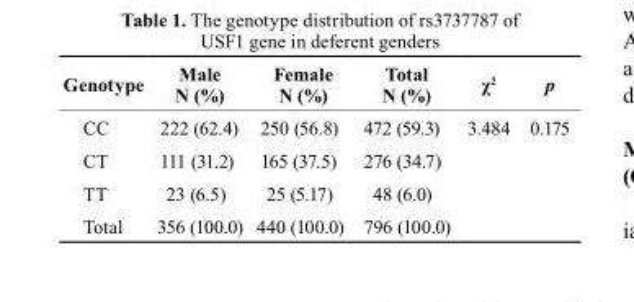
<table><thead><tr><td>Genotype</td><td>Male N (%)</td><td>Female N (%)</td><td>total N (%)</td><td>χ<sup>2</sup></td><td>p</td></tr></thead><tbody><tr><td>CC</td><td>222 (62.4)</td><td>250 (56.8)</td><td>472 (59.3)</td><td rowspan="4">3.484</td><td rowspan="4">0.175</td></tr><tr><td>CT</td><td>111 (31.2)</td><td>165 (37.5)</td><td>276 (34.7)</td></tr><tr><td>TT</td><td>23 (6.5)</td><td>25 (5.17)</td><td>48 (6.0)</td></tr><tr><td>Total</td><td>356 (100.0)</td><td>440 (100.0)</td><td>796 (100.0)</td></tr></tbody></table>